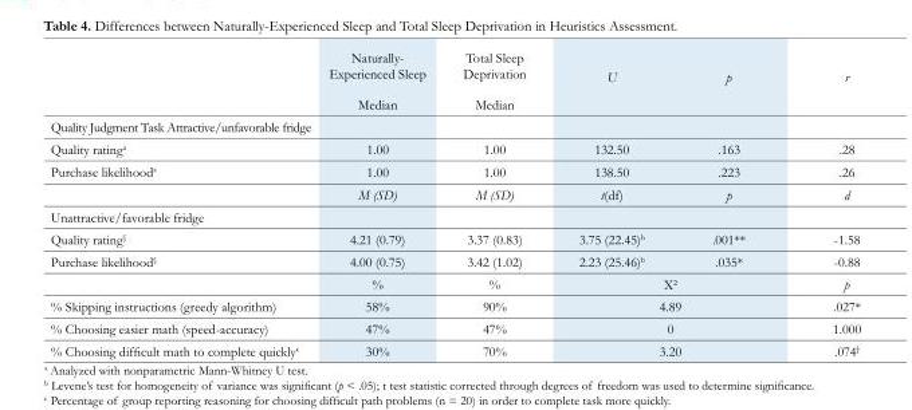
<table><thead><tr><td rowspan="2"></td><td rowspan="2">Naturally- Experienced Sleep Median</td><td rowspan="2">Total Sleep Deprivation Median</td><td rowspan="2">U</td><td rowspan="2">p</td><td rowspan="2">r</td></tr><tr></tr></thead><tbody><tr><td colspan="6">Quality Judgment Task Attractive/unfavorable fridge</td></tr><tr><td>Quality rating<sup>a</sup></td><td>1.00</td><td>1.00</td><td>132.50</td><td>.163</td><td>.28</td></tr><tr><td rowspan="2">Purchase likelihood<sup>a</sup></td><td>1.00</td><td>1.00</td><td>138.50</td><td>.223</td><td>.26</td></tr><tr><td>M (SD)</td><td>M (SD)</td><td>t(df)</td><td>p</td><td>d</td></tr><tr><td colspan="6">Unattractive/favorable fridge</td></tr><tr><td>Quality rating<sup>§</sup></td><td>4.21 (0.79)</td><td>3.37 (0.83)</td><td>3.75 (22.45)<sup>b</sup></td><td>.001**</td><td>-1.58</td></tr><tr><td rowspan="2">Purchase likelihood<sup>§</sup></td><td>4.00 (0.75)</td><td>3.42 (1.02)</td><td>2.23 (25.46)<sup>b</sup></td><td>.035*</td><td>-0.88</td></tr><tr><td>%</td><td>%</td><td colspan="2">X²</td><td>p</td></tr><tr><td>% Skipping instructions (greedy algorithm)</td><td>58%</td><td>90%</td><td colspan="2">4.89</td><td>.027*</td></tr><tr><td>% Choosing easier math (speed-accuracy)</td><td>47%</td><td>47%</td><td colspan="2">0</td><td>1.000</td></tr><tr><td>% Choosing difficult math to complete quickly<sup>c</sup></td><td>30%</td><td>70%</td><td colspan="2">3.20</td><td>.074<sup>†</sup></td></tr></tbody></table>